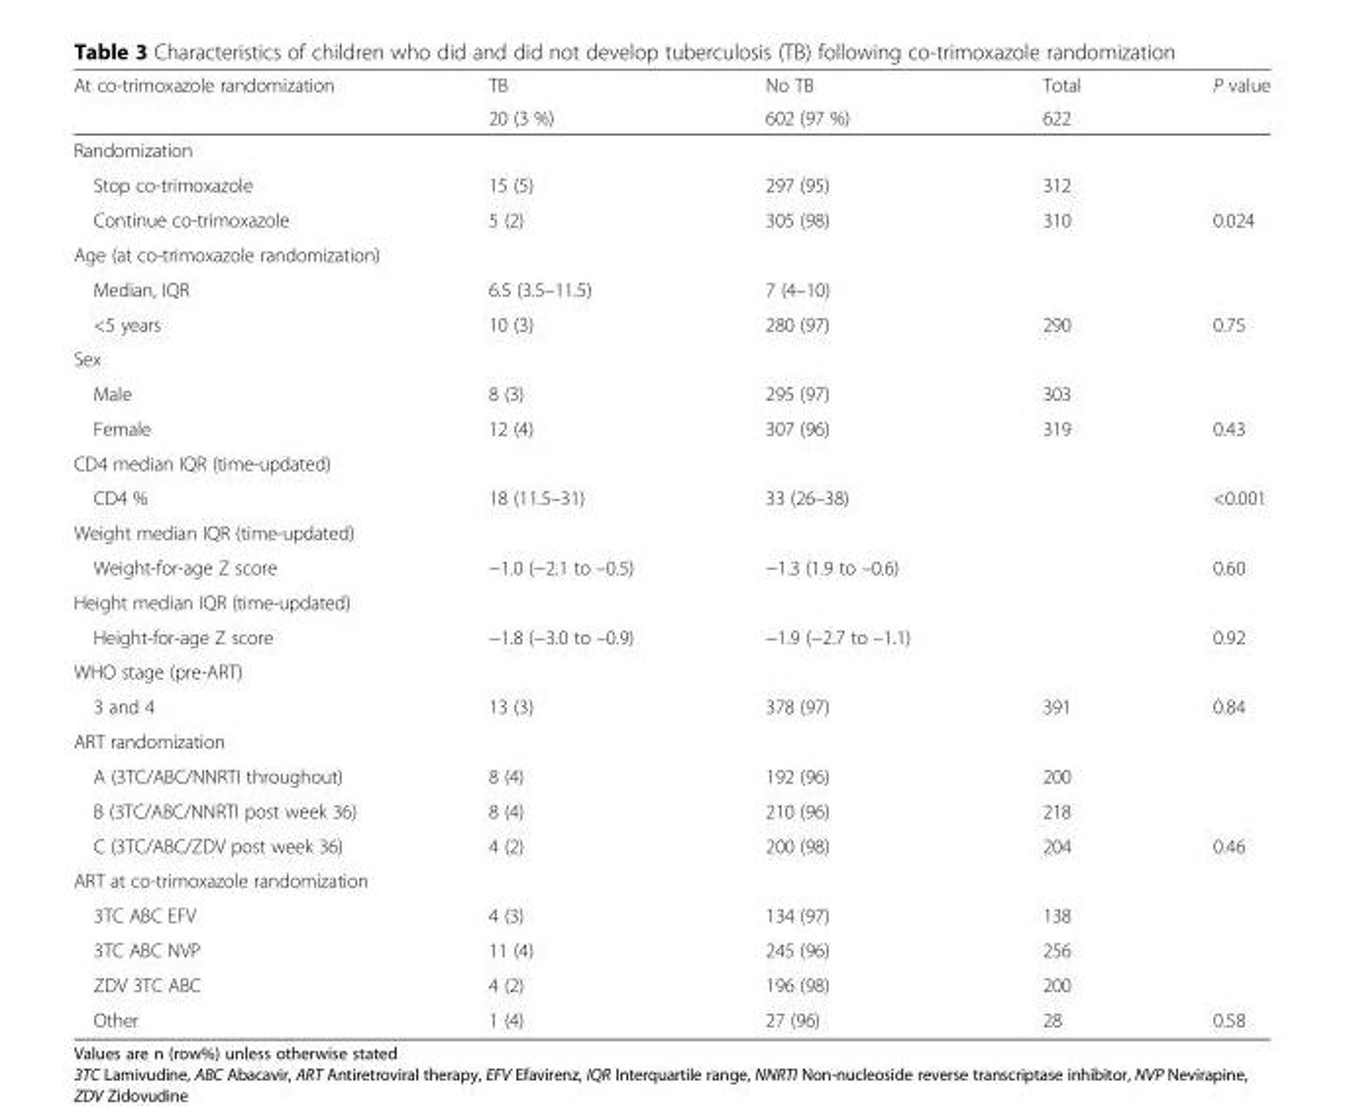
<table><thead><tr><td rowspan="2">At co-trimoxazole randomization</td><td rowspan="2">TB 20 (3 %)</td><td rowspan="2">No TB 602 (97 %)</td><td rowspan="2">Total 622</td><td rowspan="2">P value</td></tr><tr></tr></thead><tbody><tr><td colspan="5">Randomization</td></tr><tr><td>Stop co-trimoxazole</td><td>15 (5)</td><td>297 (95)</td><td>312</td><td></td></tr><tr><td>Continue co-trimoxazole</td><td>5 (2)</td><td>305 (98)</td><td>310</td><td>0.024</td></tr><tr><td colspan="5">Age (at co-trimoxazole randomization)</td></tr><tr><td>Median, IQR</td><td>6.5 (3.5–11.5)</td><td>7 (4–10)</td><td></td><td></td></tr><tr><td>&lt;5 years</td><td>10 (3)</td><td>280 (97)</td><td>290</td><td>0.75</td></tr><tr><td colspan="5">Sex</td></tr><tr><td>Male</td><td>8 (3)</td><td>295 (97)</td><td>303</td><td></td></tr><tr><td>Female</td><td>12 (4)</td><td>307 (96)</td><td>319</td><td>0.43</td></tr><tr><td colspan="5">CD4 median IQR (time-updated)</td></tr><tr><td>CD4 %</td><td>18 (11.5–31)</td><td>33 (26–38)</td><td></td><td>&lt;0.001</td></tr><tr><td colspan="5">Weight median IQR (time-updated)</td></tr><tr><td>Weight-for-age Z score</td><td>−1.0 (−2.1 to –0.5)</td><td>−1.3 (1.9 to –0.6)</td><td></td><td>0.60</td></tr><tr><td colspan="5">Height median IQR (time-updated)</td></tr><tr><td>Height-for-age Z score</td><td>−1.8 (−3.0 to –0.9)</td><td>−1.9 (−2.7 to –1.1)</td><td></td><td>0.92</td></tr><tr><td colspan="5">WHO stage (pre-ART)</td></tr><tr><td>3 and 4</td><td>13 (3)</td><td>378 (97)</td><td>391</td><td>0.84</td></tr><tr><td colspan="5">ART randomization</td></tr><tr><td>A (3TC/ABC/NNRTI throughout)</td><td>8 (4)</td><td>192 (96)</td><td>200</td><td></td></tr><tr><td>B (3TC/ABC/NNRTI post week 36)</td><td>8 (4)</td><td>210 (96)</td><td>218</td><td></td></tr><tr><td>C (3TC/ABC/ZDV post week 36)</td><td>4 (2)</td><td>200 (98)</td><td>204</td><td>0.46</td></tr><tr><td colspan="5">ART at co-trimoxazole randomization</td></tr><tr><td>3TC ABC EFV</td><td>4 (3)</td><td>134 (97)</td><td>138</td><td></td></tr><tr><td>3TC ABC NVP</td><td>11 (4)</td><td>245 (96)</td><td>256</td><td></td></tr><tr><td>ZDV 3TC ABC</td><td>4 (2)</td><td>196 (98)</td><td>200</td><td></td></tr><tr><td>Other</td><td>1 (4)</td><td>27 (96)</td><td>28</td><td>0.58</td></tr></tbody></table>